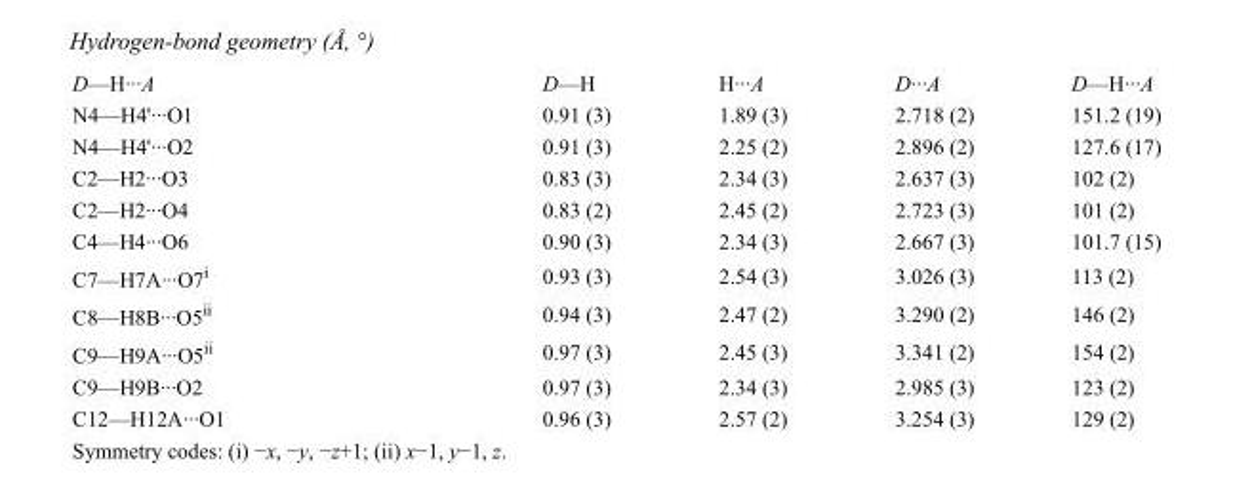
<table><tbody><tr><td>D—H···A</td><td>D—H</td><td>H···A</td><td>D···A</td><td>D—H···A</td></tr><tr><td>N4—H4&#x27;···O1</td><td>0.91 (3)</td><td>1.89 (3)</td><td>2.718 (2)</td><td>151.2 (19)</td></tr><tr><td>N4—H4&#x27;···O2</td><td>0.91 (3)</td><td>2.25 (2)</td><td>2.896 (2)</td><td>127.6 (17)</td></tr><tr><td>C2—H2···O3</td><td>0.83 (3)</td><td>2.34 (3)</td><td>2.637 (3)</td><td>102 (2)</td></tr><tr><td>C2—H2···O4</td><td>0.83 (2)</td><td>2.45 (2)</td><td>2.723 (3)</td><td>101 (2)</td></tr><tr><td>C4—H4···O6</td><td>0.90 (3)</td><td>2.34 (3)</td><td>2.667 (3)</td><td>101.7 (15)</td></tr><tr><td>C7—H7A···O7<sup>i</sup></td><td>0.93 (3)</td><td>2.54 (3)</td><td>3.026 (3)</td><td>113 (2)</td></tr><tr><td>C8—H8B···O5<sup>ii</sup></td><td>0.94 (3)</td><td>2.47 (2)</td><td>3.290 (2)</td><td>146 (2)</td></tr><tr><td>C9—H9A···O5<sup>ii</sup></td><td>0.97 (3)</td><td>2.45 (3)</td><td>3.341 (2)</td><td>154 (2)</td></tr><tr><td>C9—H9B···O2</td><td>0.97 (3)</td><td>2.34 (3)</td><td>2.985 (3)</td><td>123 (2)</td></tr><tr><td>C12—H12A···O1</td><td>0.96 (3)</td><td>2.57 (2)</td><td>3.254 (3)</td><td>129 (2)</td></tr></tbody></table>